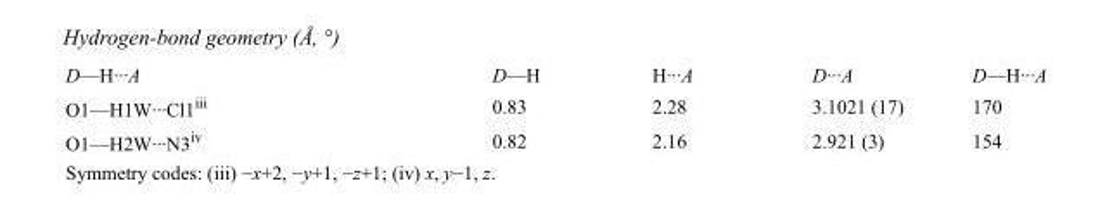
<table><tbody><tr><td>D—H···A</td><td>D—H</td><td>H···A</td><td>D···A</td><td>D—H···A</td></tr><tr><td>O1—H1W···Cl1<sup>iii</sup></td><td>0.83</td><td>2.28</td><td>3.1021 (17)</td><td>170</td></tr><tr><td>O1—H2W···N3<sup>iv</sup></td><td>0.82</td><td>2.16</td><td>2.921 (3)</td><td>154</td></tr></tbody></table>